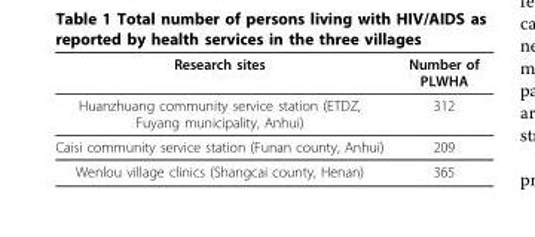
<table><thead><tr><td>Research sites</td><td>Number of PLWHA</td></tr></thead><tbody><tr><td>Huanzhuang community service station (ETDZ, Fuyang municipality, Anhui)</td><td>312</td></tr><tr><td>Caisi community service station (Funan county, Anhui)</td><td>209</td></tr><tr><td>Wenlou village clinics (Shangcai county, Henan)</td><td>365</td></tr></tbody></table>